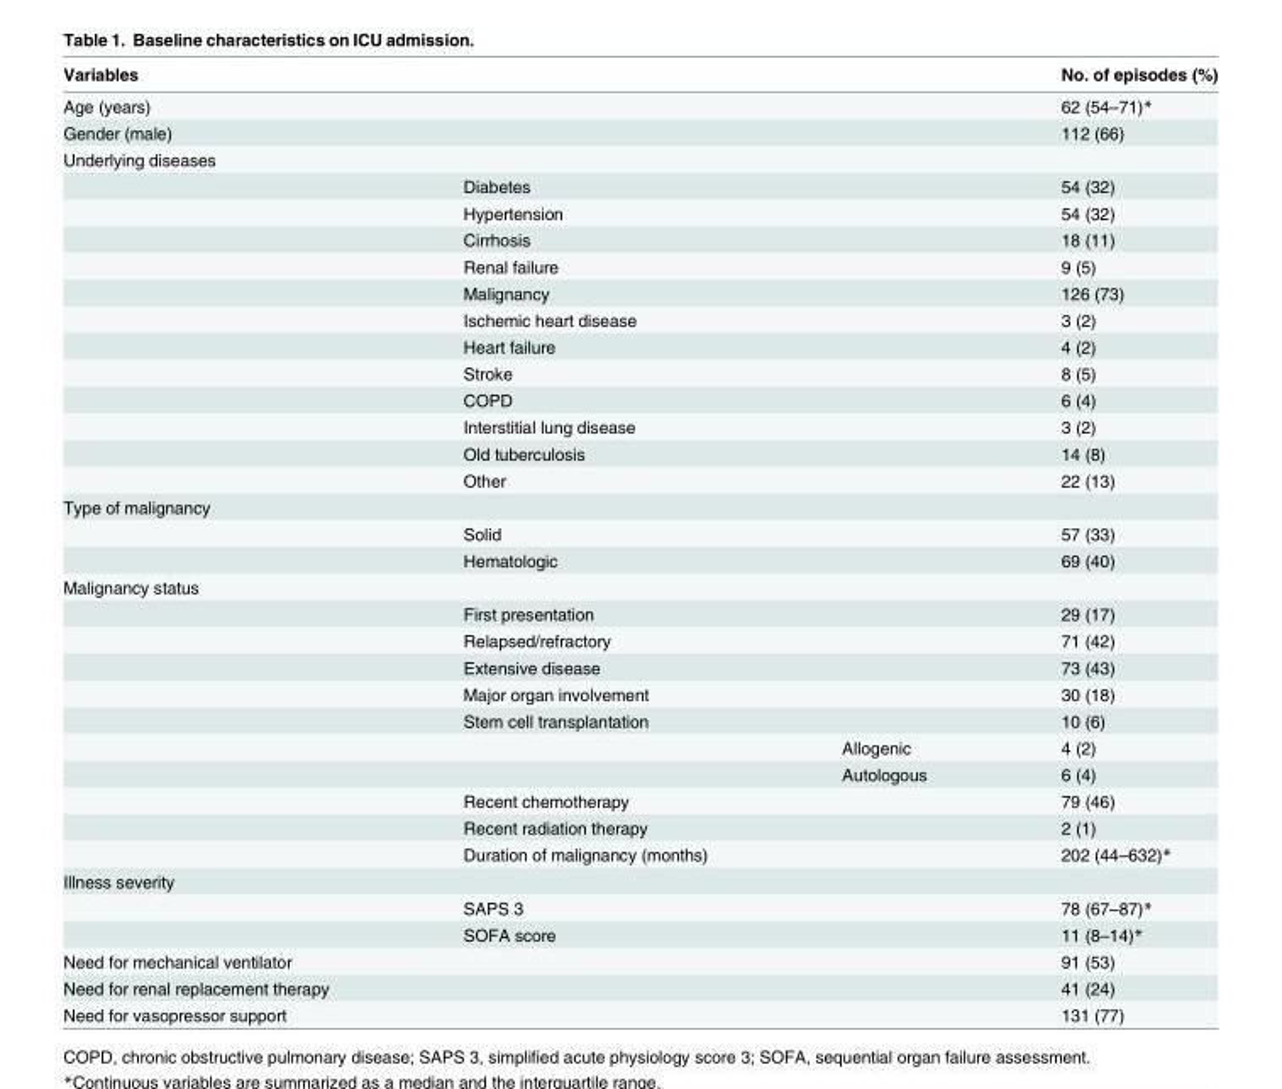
<table><thead><tr><td>Variables</td><td></td><td></td><td>No. of episodes (%)</td></tr></thead><tbody><tr><td>Age (years)</td><td></td><td></td><td>62 (54–71)*</td></tr><tr><td>Gender (male)</td><td></td><td></td><td>112 (66)</td></tr><tr><td colspan="4">Underlying diseases</td></tr><tr><td></td><td>Diabetes</td><td></td><td>54 (32)</td></tr><tr><td></td><td>Hypertension</td><td></td><td>54 (32)</td></tr><tr><td></td><td>Cirrhosis</td><td></td><td>18 (11)</td></tr><tr><td></td><td>Renal failure</td><td></td><td>9 (5)</td></tr><tr><td></td><td>Malignancy</td><td></td><td>126 (73)</td></tr><tr><td></td><td>Ischemic heart disease</td><td></td><td>3 (2)</td></tr><tr><td></td><td>Heart failure</td><td></td><td>4 (2)</td></tr><tr><td></td><td>Stroke</td><td></td><td>8 (5)</td></tr><tr><td></td><td>COPD</td><td></td><td>6 (4)</td></tr><tr><td></td><td>Interstitial lung disease</td><td></td><td>3 (2)</td></tr><tr><td></td><td>Old tuberculosis</td><td></td><td>14 (8)</td></tr><tr><td></td><td>Other</td><td></td><td>22 (13)</td></tr><tr><td colspan="4">Type of malignancy</td></tr><tr><td></td><td>Solid</td><td></td><td>57 (33)</td></tr><tr><td></td><td>Hematologic</td><td></td><td>69 (40)</td></tr><tr><td colspan="4">Malignancy status</td></tr><tr><td></td><td>First presentation</td><td></td><td>29 (17)</td></tr><tr><td></td><td>Relapsed/refractory</td><td></td><td>71 (42)</td></tr><tr><td></td><td>Extensive disease</td><td></td><td>73 (43)</td></tr><tr><td></td><td>Major organ involvement</td><td></td><td>30 (18)</td></tr><tr><td></td><td>Stem cell transplantation</td><td></td><td>10 (6)</td></tr><tr><td></td><td></td><td>Allogenic</td><td>4 (2)</td></tr><tr><td></td><td></td><td>Autologous</td><td>6 (4)</td></tr><tr><td></td><td>Recent chemotherapy</td><td></td><td>79 (46)</td></tr><tr><td></td><td>Recent radiation therapy</td><td></td><td>2 (1)</td></tr><tr><td></td><td>Duration of malignancy (months)</td><td></td><td>202 (44–632)*</td></tr><tr><td colspan="4">Illness severity</td></tr><tr><td></td><td>SAPS 3</td><td></td><td>78 (67–87)*</td></tr><tr><td></td><td>SOFA score</td><td></td><td>11 (8–14)*</td></tr><tr><td>Need for mechanical ventilator</td><td></td><td></td><td>91 (53)</td></tr><tr><td>Need for renal replacement therapy</td><td></td><td></td><td>41 (24)</td></tr><tr><td>Need for vasopressor support</td><td></td><td></td><td>131 (77)</td></tr></tbody></table>